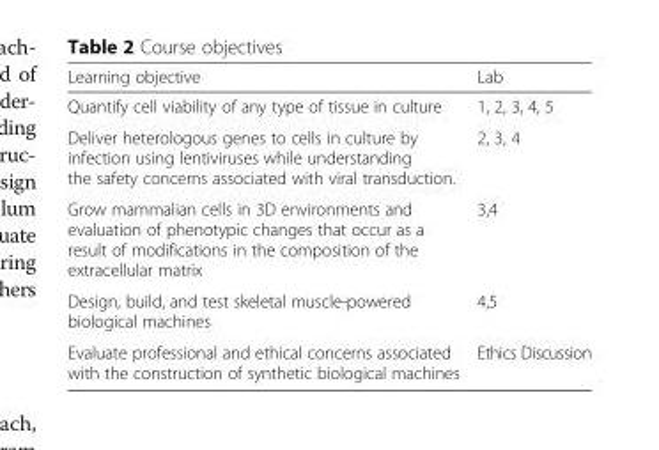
<table><thead><tr><td>Learning objective</td><td>Lab</td></tr></thead><tbody><tr><td>Quantify cell viability of any type of tissue in culture</td><td>1, 2, 3, 4, 5</td></tr><tr><td>Deliver heterologous genes to cells in culture by infection using lentiviruses while understanding the safety concerns associated with viral transduction.</td><td>2, 3, 4</td></tr><tr><td>Grow mammalian cells in 3D environments and evaluation of phenotypic changes that occur as a result of modifications in the composition of the extracellular matrix</td><td>3,4</td></tr><tr><td>Design, build, and test skeletal muscle-powered biological machines</td><td>4,5</td></tr><tr><td>Evaluate professional and ethical concerns associated with the construction of synthetic biological machines</td><td>Ethics Discussion</td></tr></tbody></table>